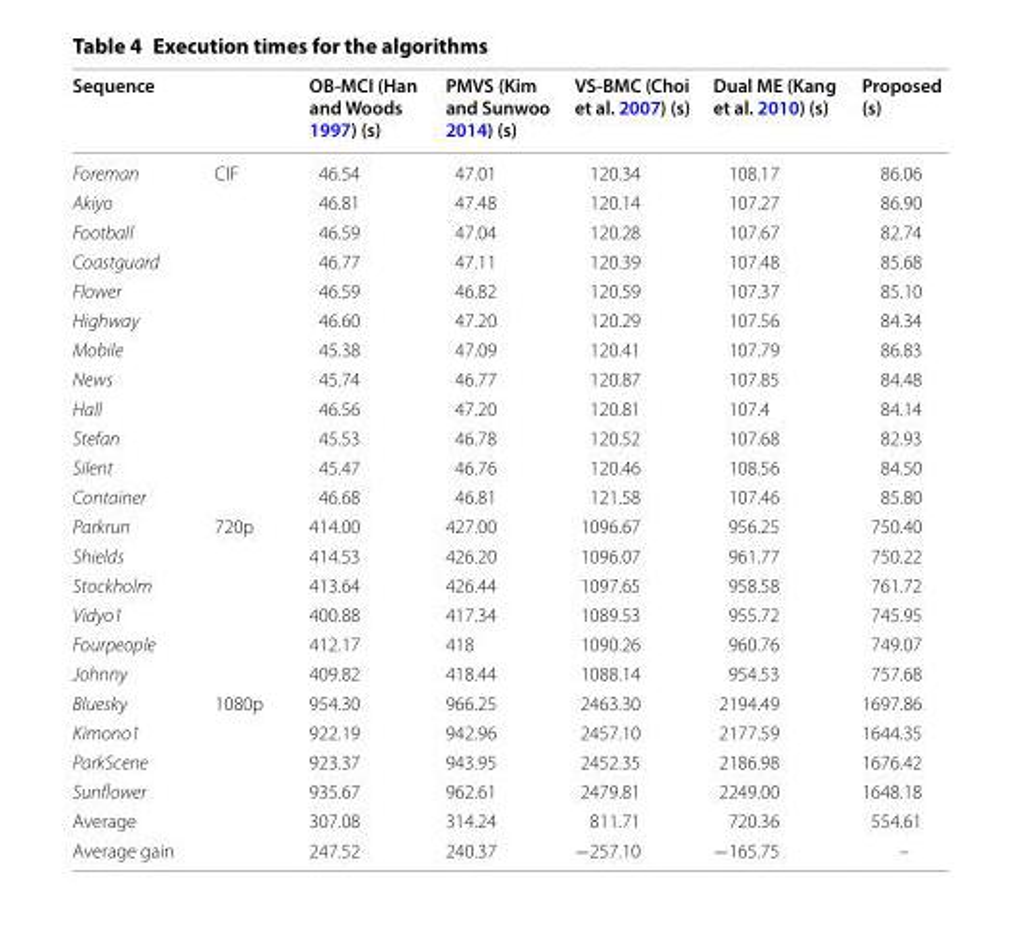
<table><thead><tr><td>Sequence</td><td></td><td>OB‑MCI (Han and Woods 1997) (s)</td><td>PMVS (Kim and Sunwoo 2014) (s)</td><td>VS‑BMC (Choi et al. 2007) (s)</td><td>Dual ME (Kang et al. 2010) (s)</td><td>Proposed (s)</td></tr></thead><tbody><tr><td>Foreman</td><td rowspan="12">CIF</td><td>46.54</td><td>47.01</td><td>120.34</td><td>108.17</td><td>86.06</td></tr><tr><td>Akiyo</td><td>46.81</td><td>47.48</td><td>120.14</td><td>107.27</td><td>86.90</td></tr><tr><td>Football</td><td>46.59</td><td>47.04</td><td>120.28</td><td>107.67</td><td>82.74</td></tr><tr><td>Coastguard</td><td>46.77</td><td>47.11</td><td>120.39</td><td>107.48</td><td>85.68</td></tr><tr><td>Flower</td><td>46.59</td><td>46.82</td><td>120.59</td><td>107.37</td><td>85.10</td></tr><tr><td>Highway</td><td>46.60</td><td>47.20</td><td>120.29</td><td>107.56</td><td>84.34</td></tr><tr><td>Mobile</td><td>45.38</td><td>47.09</td><td>120.41</td><td>107.79</td><td>86.83</td></tr><tr><td>News</td><td>45.74</td><td>46.77</td><td>120.87</td><td>107.85</td><td>84.48</td></tr><tr><td>Hall</td><td>46.56</td><td>47.20</td><td>120.81</td><td>107.4</td><td>84.14</td></tr><tr><td>Stefan</td><td>45.53</td><td>46.78</td><td>120.52</td><td>107.68</td><td>82.93</td></tr><tr><td>Silent</td><td>45.47</td><td>46.76</td><td>120.46</td><td>108.56</td><td>84.50</td></tr><tr><td>Container</td><td>46.68</td><td>46.81</td><td>121.58</td><td>107.46</td><td>85.80</td></tr><tr><td>Parkrun</td><td rowspan="6">720p</td><td>414.00</td><td>427.00</td><td>1096.67</td><td>956.25</td><td>750.40</td></tr><tr><td>Shields</td><td>414.53</td><td>426.20</td><td>1096.07</td><td>961.77</td><td>750.22</td></tr><tr><td>Stockholm</td><td>413.64</td><td>426.44</td><td>1097.65</td><td>958.58</td><td>761.72</td></tr><tr><td>Vidyo1</td><td>400.88</td><td>417.34</td><td>1089.53</td><td>955.72</td><td>745.95</td></tr><tr><td>Fourpeople</td><td>412.17</td><td>418</td><td>1090.26</td><td>960.76</td><td>749.07</td></tr><tr><td>Johnny</td><td>409.82</td><td>418.44</td><td>1088.14</td><td>954.53</td><td>757.68</td></tr><tr><td>Bluesky</td><td rowspan="4">1080p</td><td>954.30</td><td>966.25</td><td>2463.30</td><td>2194.49</td><td>1697.86</td></tr><tr><td>Kimono1</td><td>922.19</td><td>942.96</td><td>2457.10</td><td>2177.59</td><td>1644.35</td></tr><tr><td>ParkScene</td><td>923.37</td><td>943.95</td><td>2452.35</td><td>2186.98</td><td>1676.42</td></tr><tr><td>Sunflower</td><td>935.67</td><td>962.61</td><td>2479.81</td><td>2249.00</td><td>1648.18</td></tr><tr><td>Average</td><td></td><td>307.08</td><td>314.24</td><td>811.71</td><td>720.36</td><td>554.61</td></tr><tr><td>Average gain</td><td></td><td>247.52</td><td>240.37</td><td>−257.10</td><td>−165.75</td><td>–</td></tr></tbody></table>